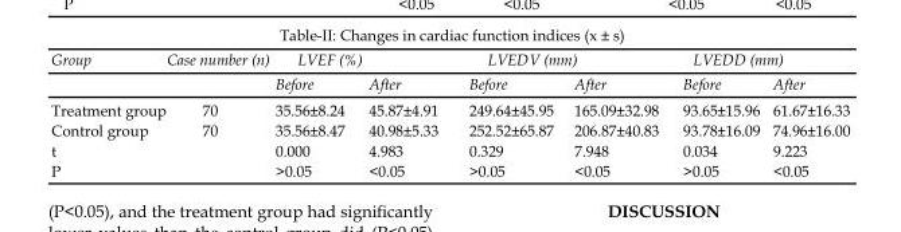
<table><tbody><tr><td rowspan="2">Group</td><td rowspan="2">Case number (n)</td><td colspan="2">LVEF (%)</td><td colspan="2">LVEDV (mm)</td><td colspan="2">LVEDD (mm)</td></tr><tr><td>Before</td><td>After</td><td>Before</td><td>After</td><td>Before</td><td>After</td></tr><tr><td>Treatment group</td><td>70</td><td>35.56±8.24</td><td>45.87±4.91</td><td>249.64±45.95</td><td>165.09±32.98</td><td>93.65±15.96</td><td>61.67±16.33</td></tr><tr><td>Control group</td><td>70</td><td>35.56±8.47</td><td>40.98±5.33</td><td>252.52±65.87</td><td>206.87±40.83</td><td>93.78±16.09</td><td>74.96±16.00</td></tr><tr><td>t</td><td></td><td>0.000</td><td>4.983</td><td>0.329</td><td>7.948</td><td>0.034</td><td>9.223</td></tr><tr><td>P</td><td></td><td>&gt;0.05</td><td>&lt;0.05</td><td>&gt;0.05</td><td>&lt;0.05</td><td>&gt;0.05</td><td>&lt;0.05</td></tr></tbody></table>